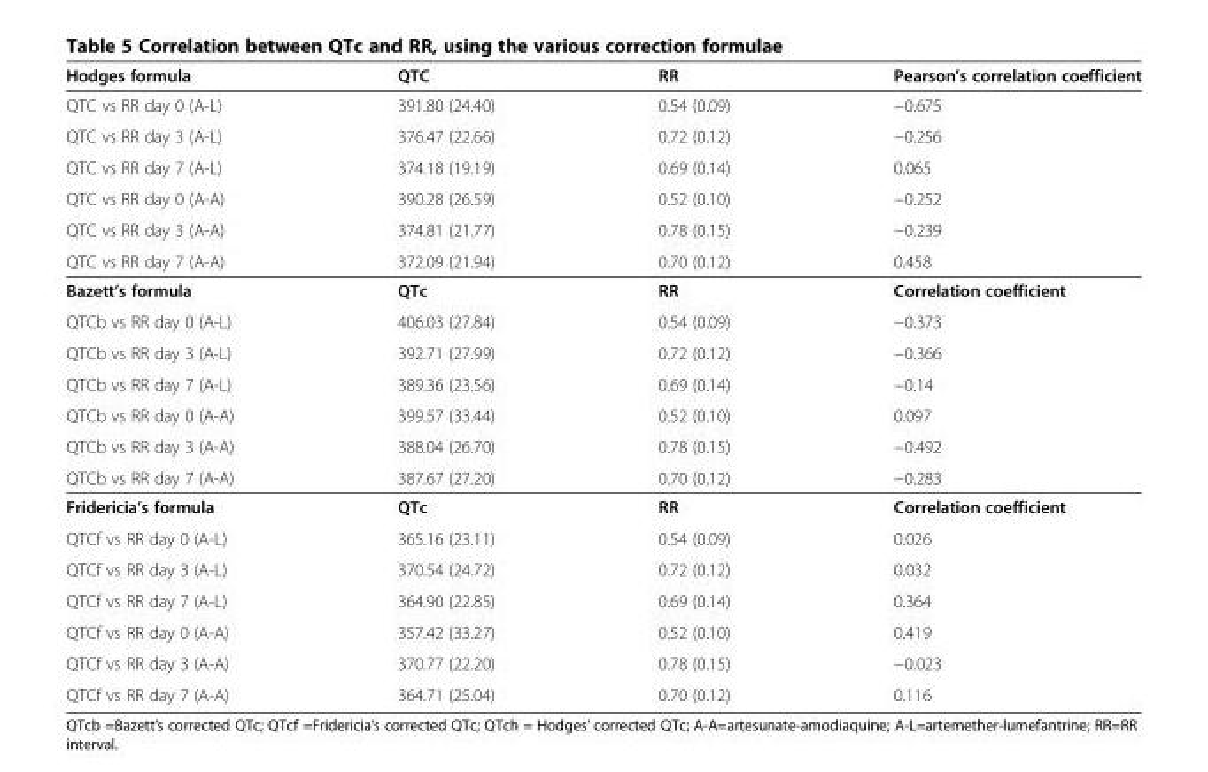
<table><thead><tr><td>Hodges formula</td><td>QTC</td><td>RR</td><td>Pearson’s correlation coefficient</td></tr></thead><tbody><tr><td>QTC vs RR day 0 (A-L)</td><td>391.80 (24.40)</td><td>0.54 (0.09)</td><td>−0.675</td></tr><tr><td>QTC vs RR day 3 (A-L)</td><td>376.47 (22.66)</td><td>0.72 (0.12)</td><td>−0.256</td></tr><tr><td>QTC vs RR day 7 (A-L)</td><td>374.18 (19.19)</td><td>0.69 (0.14)</td><td>0.065</td></tr><tr><td>QTC vs RR day 0 (A-A)</td><td>390.28 (26.59)</td><td>0.52 (0.10)</td><td>−0.252</td></tr><tr><td>QTC vs RR day 3 (A-A)</td><td>374.81 (21.77)</td><td>0.78 (0.15)</td><td>−0.239</td></tr><tr><td>QTC vs RR day 7 (A-A)</td><td>372.09 (21.94)</td><td>0.70 (0.12)</td><td>0.458</td></tr><tr><td>Bazett’s formula</td><td>QTc</td><td>RR</td><td>Correlation coefficient</td></tr><tr><td>QTCb vs RR day 0 (A-L)</td><td>406.03 (27.84)</td><td>0.54 (0.09)</td><td>−0.373</td></tr><tr><td>QTCb vs RR day 3 (A-L)</td><td>392.71 (27.99)</td><td>0.72 (0.12)</td><td>−0.366</td></tr><tr><td>QTCb vs RR day 7 (A-L)</td><td>389.36 (23.56)</td><td>0.69 (0.14)</td><td>−0.14</td></tr><tr><td>QTCb vs RR day 0 (A-A)</td><td>399.57 (33.44)</td><td>0.52 (0.10)</td><td>0.097</td></tr><tr><td>QTCb vs RR day 3 (A-A)</td><td>388.04 (26.70)</td><td>0.78 (0.15)</td><td>−0.492</td></tr><tr><td>QTCb vs RR day 7 (A-A)</td><td>387.67 (27.20)</td><td>0.70 (0.12)</td><td>−0.283</td></tr><tr><td>Fridericia’s formula</td><td>QTc</td><td>RR</td><td>Correlation coefficient</td></tr><tr><td>QTCf vs RR day 0 (A-L)</td><td>365.16 (23.11)</td><td>0.54 (0.09)</td><td>0.026</td></tr><tr><td>QTCf vs RR day 3 (A-L)</td><td>370.54 (24.72)</td><td>0.72 (0.12)</td><td>0.032</td></tr><tr><td>QTCf vs RR day 7 (A-L)</td><td>364.90 (22.85)</td><td>0.69 (0.14)</td><td>0.364</td></tr><tr><td>QTCf vs RR day 0 (A-A)</td><td>357.42 (33.27)</td><td>0.52 (0.10)</td><td>0.419</td></tr><tr><td>QTCf vs RR day 3 (A-A)</td><td>370.77 (22.20)</td><td>0.78 (0.15)</td><td>−0.023</td></tr><tr><td>QTCf vs RR day 7 (A-A)</td><td>364.71 (25.04)</td><td>0.70 (0.12)</td><td>0.116</td></tr></tbody></table>